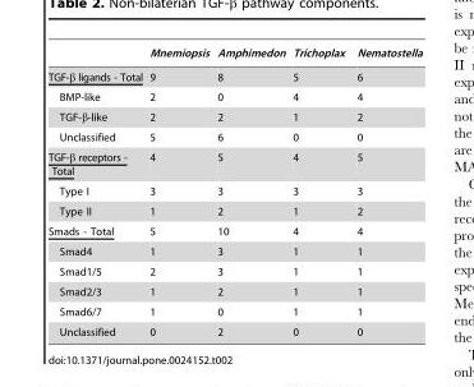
<table><thead><tr><td></td><td>Mnemiopsis</td><td>Amphimedon</td><td>Trichoplax</td><td>Nematostella</td></tr></thead><tbody><tr><td>TGF-β ligands - Total</td><td>9</td><td>8</td><td>5</td><td>6</td></tr><tr><td>BMP-like</td><td>2</td><td>0</td><td>4</td><td>4</td></tr><tr><td>TGF-β-like</td><td>2</td><td>2</td><td>1</td><td>2</td></tr><tr><td>Unclassified</td><td>5</td><td>6</td><td>0</td><td>0</td></tr><tr><td>TGF-β receptors - Total</td><td>4</td><td>5</td><td>4</td><td>5</td></tr><tr><td>Type I</td><td>3</td><td>3</td><td>3</td><td>3</td></tr><tr><td>Type II</td><td>1</td><td>2</td><td>1</td><td>2</td></tr><tr><td>Smads - Total</td><td>5</td><td>10</td><td>4</td><td>4</td></tr><tr><td>Smad4</td><td>1</td><td>3</td><td>1</td><td>1</td></tr><tr><td>Smad1/5</td><td>2</td><td>3</td><td>1</td><td>1</td></tr><tr><td>Smad2/3</td><td>1</td><td>2</td><td>1</td><td>1</td></tr><tr><td>Smad6/7</td><td>1</td><td>0</td><td>1</td><td>1</td></tr><tr><td>Unclassified</td><td>0</td><td>2</td><td>0</td><td>0</td></tr></tbody></table>